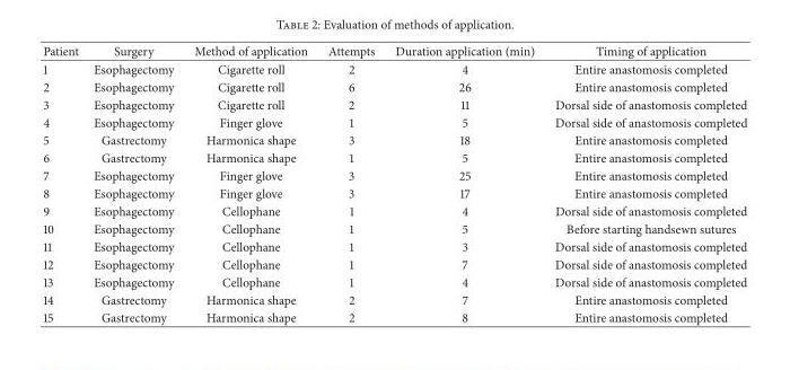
<table><thead><tr><td>Patient</td><td>Surgery</td><td>Method of application</td><td>Attempts</td><td>Duration application (min)</td><td>Timing of application</td></tr></thead><tbody><tr><td>1</td><td>Esophagectomy</td><td>Cigarette roll</td><td>2</td><td>4</td><td>Entire anastomosis completed</td></tr><tr><td>2</td><td>Esophagectomy</td><td>Cigarette roll</td><td>6</td><td>26</td><td>Entire anastomosis completed</td></tr><tr><td>3</td><td>Esophagectomy</td><td>Cigarette roll</td><td>2</td><td>11</td><td>Dorsal side of anastomosis completed</td></tr><tr><td>4</td><td>Esophagectomy</td><td>Finger glove</td><td>1</td><td>5</td><td>Dorsal side of anastomosis completed</td></tr><tr><td>5</td><td>Gastrectomy</td><td>Harmonica shape</td><td>3</td><td>18</td><td>Entire anastomosis completed</td></tr><tr><td>6</td><td>Gastrectomy</td><td>Harmonica shape</td><td>1</td><td>5</td><td>Entire anastomosis completed</td></tr><tr><td>7</td><td>Esophagectomy</td><td>Finger glove</td><td>3</td><td>25</td><td>Entire anastomosis completed</td></tr><tr><td>8</td><td>Esophagectomy</td><td>Finger glove</td><td>3</td><td>17</td><td>Entire anastomosis completed</td></tr><tr><td>9</td><td>Esophagectomy</td><td>Cellophane</td><td>1</td><td>4</td><td>Dorsal side of anastomosis completed</td></tr><tr><td>10</td><td>Esophagectomy</td><td>Cellophane</td><td>1</td><td>5</td><td>Before starting handsewn sutures</td></tr><tr><td>11</td><td>Esophagectomy</td><td>Cellophane</td><td>1</td><td>3</td><td>Dorsal side of anastomosis completed</td></tr><tr><td>12</td><td>Esophagectomy</td><td>Cellophane</td><td>1</td><td>7</td><td>Dorsal side of anastomosis completed</td></tr><tr><td>13</td><td>Esophagectomy</td><td>Cellophane</td><td>1</td><td>4</td><td>Dorsal side of anastomosis completed</td></tr><tr><td>14</td><td>Gastrectomy</td><td>Harmonica shape</td><td>2</td><td>7</td><td>Entire anastomosis completed</td></tr><tr><td>15</td><td>Gastrectomy</td><td>Harmonica shape</td><td>2</td><td>8</td><td>Entire anastomosis completed</td></tr></tbody></table>